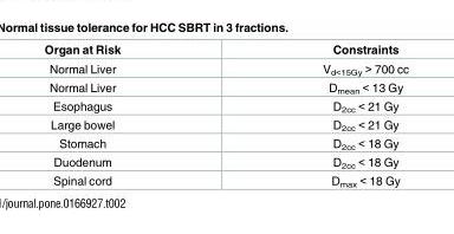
<table><thead><tr><td>Organ at Risk</td><td>Constraints</td></tr></thead><tbody><tr><td>Normal Liver</td><td>V<sub>d&lt;15Gy</sub> &gt; 700 cc</td></tr><tr><td>Normal Liver</td><td>D<sub>mean</sub> &lt; 13 Gy</td></tr><tr><td>Esophagus</td><td>D<sub>2cc</sub> &lt; 21 Gy</td></tr><tr><td>Large bowel</td><td>D<sub>2cc</sub> &lt; 21 Gy</td></tr><tr><td>Stomach</td><td>D<sub>2cc</sub> &lt; 18 Gy</td></tr><tr><td>Duodenum</td><td>D<sub>2cc</sub> &lt; 18 Gy</td></tr><tr><td>Spinal cord</td><td>D<sub>max</sub> &lt; 18 Gy</td></tr></tbody></table>